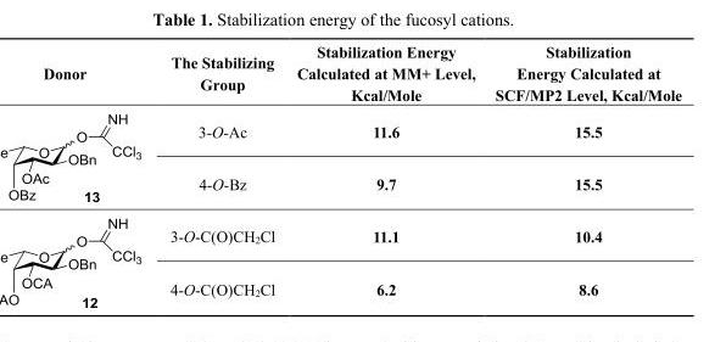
<table><thead><tr><td>Donor</td><td>The Stabilizing Group</td><td>Stabilization Energy Calculated at MM+ Level, Kcal/Mole</td><td>Stabilization Energy Calculated at SCF/MP2 Level, Kcal/Mole</td></tr></thead><tbody><tr><td rowspan="2"></td><td>3-O-Ac</td><td>11.6</td><td>15.5</td></tr><tr><td>4-O-Bz</td><td>9.7</td><td>15.5</td></tr><tr><td rowspan="2"></td><td>3-O-C(O)CH<sub>2</sub>Cl</td><td>11.1</td><td>10.4</td></tr><tr><td>4-O-C(O)CH<sub>2</sub>Cl</td><td>6.2</td><td>8.6</td></tr></tbody></table>